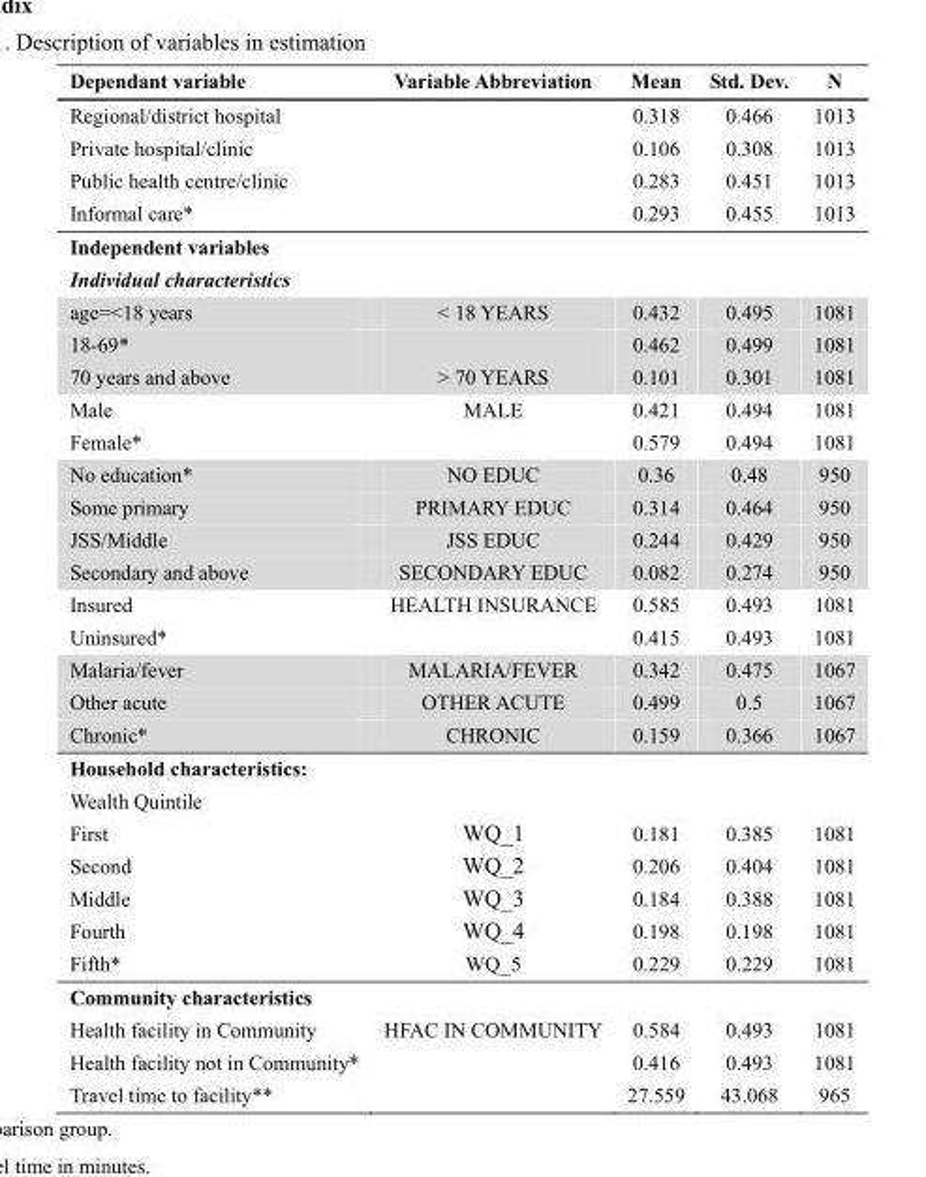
<table><thead><tr><td>Dependant variable</td><td>Variable Abbreviation</td><td>Mean</td><td>Std. Dev.</td><td>N</td></tr></thead><tbody><tr><td>Regional/district hospital</td><td></td><td>0.318</td><td>0.466</td><td>1013</td></tr><tr><td>Private hospital/clinic</td><td></td><td>0.106</td><td>0.308</td><td>1013</td></tr><tr><td>Public health centre/clinic</td><td></td><td>0.283</td><td>0.451</td><td>1013</td></tr><tr><td>Informal care*</td><td></td><td>0.293</td><td>0.455</td><td>1013</td></tr><tr><td colspan="5">Independent variables</td></tr><tr><td colspan="5">Individual characteristics</td></tr><tr><td>age=&lt;18 years</td><td>&lt; 18 YEARS</td><td>0.432</td><td>0.495</td><td>1081</td></tr><tr><td>18-69*</td><td></td><td>0.462</td><td>0.499</td><td>1081</td></tr><tr><td>70 years and above</td><td>&gt; 70 YEARS</td><td>0.101</td><td>0.301</td><td>1081</td></tr><tr><td>Male</td><td>MALE</td><td>0.421</td><td>0.494</td><td>1081</td></tr><tr><td>Female*</td><td></td><td>0.579</td><td>0.494</td><td>1081</td></tr><tr><td>No education*</td><td>NO EDUC</td><td>0.36</td><td>0.48</td><td>950</td></tr><tr><td>Some primary</td><td>PRIMARY EDUC</td><td>0.314</td><td>0.464</td><td>950</td></tr><tr><td>JSS/Middle</td><td>JSS EDUC</td><td>0.244</td><td>0.429</td><td>950</td></tr><tr><td>Secondary and above</td><td>SECONDARY EDUC</td><td>0.082</td><td>0.274</td><td>950</td></tr><tr><td>Insured</td><td>HEALTH INSURANCE</td><td>0.585</td><td>0.493</td><td>1081</td></tr><tr><td>Uninsured*</td><td></td><td>0.415</td><td>0.493</td><td>1081</td></tr><tr><td>Malaria/fever</td><td>MALARIA/FEVER</td><td>0.342</td><td>0.475</td><td>1067</td></tr><tr><td>Other acute</td><td>OTHER ACUTE</td><td>0.499</td><td>0.5</td><td>1067</td></tr><tr><td>Chronic*</td><td>CHRONIC</td><td>0.159</td><td>0.366</td><td>1067</td></tr><tr><td colspan="5">Household characteristics:</td></tr><tr><td colspan="5">Wealth Quintile</td></tr><tr><td>First</td><td>WQ_1</td><td>0.181</td><td>0.385</td><td>1081</td></tr><tr><td>Second</td><td>WQ_2</td><td>0.206</td><td>0.404</td><td>1081</td></tr><tr><td>Middle</td><td>WQ_3</td><td>0.184</td><td>0.388</td><td>1081</td></tr><tr><td>Fourth</td><td>WQ_4</td><td>0.198</td><td>0.198</td><td>1081</td></tr><tr><td>Fifth*</td><td>WQ_5</td><td>0.229</td><td>0.229</td><td>1081</td></tr><tr><td colspan="5">Community characteristics</td></tr><tr><td>Health facility in Community</td><td>HFAC IN COMMUNITY</td><td>0.584</td><td>0.493</td><td>1081</td></tr><tr><td>Health facility not in Community*</td><td></td><td>0.416</td><td>0.493</td><td>1081</td></tr><tr><td>Travel time to facility**</td><td></td><td>27.559</td><td>43.068</td><td>965</td></tr></tbody></table>